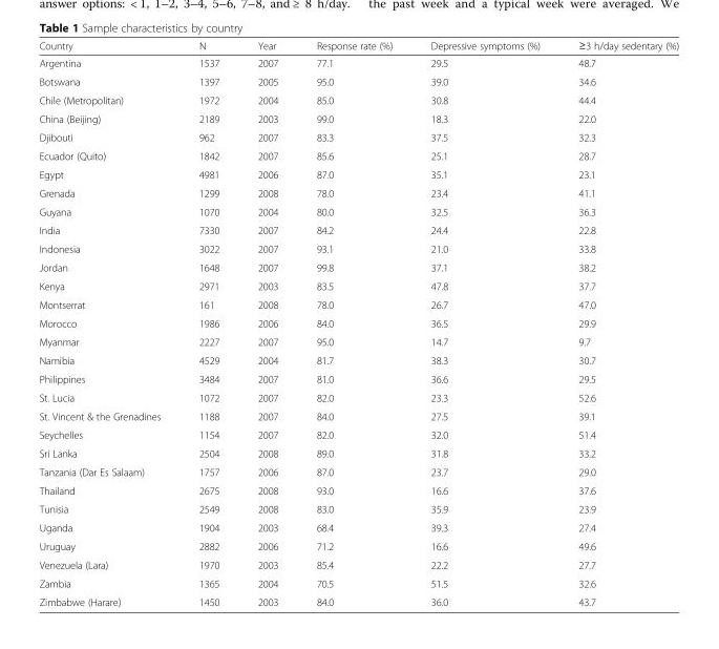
<table><thead><tr><td>Country</td><td>N</td><td>Year</td><td>Response rate (%)</td><td>Depressive symptoms (%)</td><td>≥3 h/day sedentary (%)</td></tr></thead><tbody><tr><td>Argentina</td><td>1537</td><td>2007</td><td>77.1</td><td>29.5</td><td>48.7</td></tr><tr><td>Botswana</td><td>1397</td><td>2005</td><td>95.0</td><td>39.0</td><td>34.6</td></tr><tr><td>Chile (Metropolitan)</td><td>1972</td><td>2004</td><td>85.0</td><td>30.8</td><td>44.4</td></tr><tr><td>China (Beijing)</td><td>2189</td><td>2003</td><td>99.0</td><td>18.3</td><td>22.0</td></tr><tr><td>Djibouti</td><td>962</td><td>2007</td><td>83.3</td><td>37.5</td><td>32.3</td></tr><tr><td>Ecuador (Quito)</td><td>1842</td><td>2007</td><td>85.6</td><td>25.1</td><td>28.7</td></tr><tr><td>Egypt</td><td>4981</td><td>2006</td><td>87.0</td><td>35.1</td><td>23.1</td></tr><tr><td>Grenada</td><td>1299</td><td>2008</td><td>78.0</td><td>23.4</td><td>41.1</td></tr><tr><td>Guyana</td><td>1070</td><td>2004</td><td>80.0</td><td>32.5</td><td>36.3</td></tr><tr><td>India</td><td>7330</td><td>2007</td><td>84.2</td><td>24.4</td><td>22.8</td></tr><tr><td>Indonesia</td><td>3022</td><td>2007</td><td>93.1</td><td>21.0</td><td>33.8</td></tr><tr><td>Jordan</td><td>1648</td><td>2007</td><td>99.8</td><td>37.1</td><td>38.2</td></tr><tr><td>Kenya</td><td>2971</td><td>2003</td><td>83.5</td><td>47.8</td><td>37.7</td></tr><tr><td>Montserrat</td><td>161</td><td>2008</td><td>78.0</td><td>26.7</td><td>47.0</td></tr><tr><td>Morocco</td><td>1986</td><td>2006</td><td>84.0</td><td>36.5</td><td>29.9</td></tr><tr><td>Myanmar</td><td>2227</td><td>2007</td><td>95.0</td><td>14.7</td><td>9.7</td></tr><tr><td>Namibia</td><td>4529</td><td>2004</td><td>81.7</td><td>38.3</td><td>30.7</td></tr><tr><td>Philippines</td><td>3484</td><td>2007</td><td>81.0</td><td>36.6</td><td>29.5</td></tr><tr><td>St. Lucia</td><td>1072</td><td>2007</td><td>82.0</td><td>23.3</td><td>52.6</td></tr><tr><td>St. Vincent &amp; the Grenadines</td><td>1188</td><td>2007</td><td>84.0</td><td>27.5</td><td>39.1</td></tr><tr><td>Seychelles</td><td>1154</td><td>2007</td><td>82.0</td><td>32.0</td><td>51.4</td></tr><tr><td>Sri Lanka</td><td>2504</td><td>2008</td><td>89.0</td><td>31.8</td><td>33.2</td></tr><tr><td>Tanzania (Dar Es Salaam)</td><td>1757</td><td>2006</td><td>87.0</td><td>23.7</td><td>29.0</td></tr><tr><td>Thailand</td><td>2675</td><td>2008</td><td>93.0</td><td>16.6</td><td>37.6</td></tr><tr><td>Tunisia</td><td>2549</td><td>2008</td><td>83.0</td><td>35.9</td><td>23.9</td></tr><tr><td>Uganda</td><td>1904</td><td>2003</td><td>68.4</td><td>39.3</td><td>27.4</td></tr><tr><td>Uruguay</td><td>2882</td><td>2006</td><td>71.2</td><td>16.6</td><td>49.6</td></tr><tr><td>Venezuela (Lara)</td><td>1970</td><td>2003</td><td>85.4</td><td>22.2</td><td>27.7</td></tr><tr><td>Zambia</td><td>1365</td><td>2004</td><td>70.5</td><td>51.5</td><td>32.6</td></tr><tr><td>Zimbabwe (Harare)</td><td>1450</td><td>2003</td><td>84.0</td><td>36.0</td><td>43.7</td></tr></tbody></table>